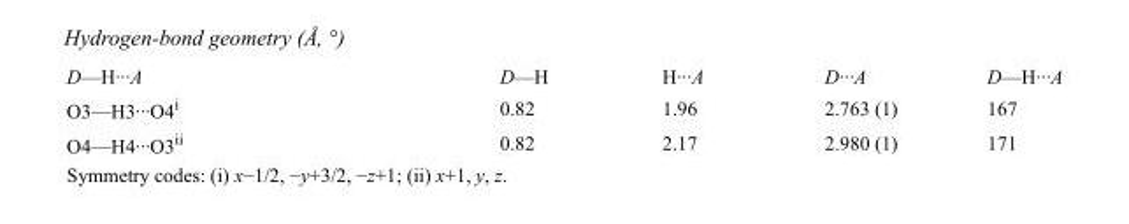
<table><tbody><tr><td>D—H···A</td><td>D—H</td><td>H···A</td><td>D···A</td><td>D—H···A</td></tr><tr><td>O3—H3···O4<sup>i</sup></td><td>0.82</td><td>1.96</td><td>2.763 (1)</td><td>167</td></tr><tr><td>O4—H4···O3<sup>ii</sup></td><td>0.82</td><td>2.17</td><td>2.980 (1)</td><td>171</td></tr></tbody></table>